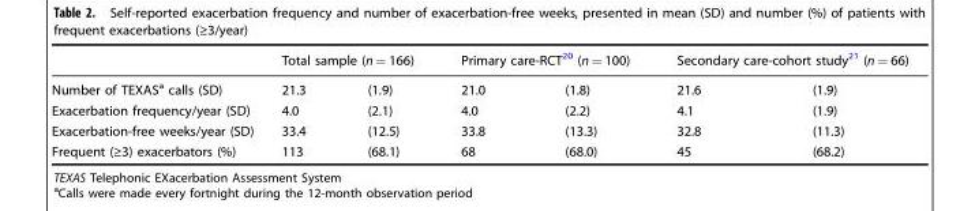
<table><thead><tr><td rowspan="2">Number of TEXAS<sup>a</sup> calls (SD)</td><td colspan="2">Total sample (n = 166)</td><td colspan="2">Primary care-RCT<sup>20</sup> (n = 100)</td><td colspan="2">Secondary care-cohort study<sup>21</sup> (n = 66)</td></tr><tr><td>21.3</td><td>(1.9)</td><td>21.0</td><td>(1.8)</td><td>21.6</td><td>(1.9)</td></tr></thead><tbody><tr><td>Exacerbation frequency/year (SD)</td><td>4.0</td><td>(2.1)</td><td>4.0</td><td>(2.2)</td><td>4.1</td><td>(1.9)</td></tr><tr><td>Exacerbation-free weeks/year (SD)</td><td>33.4</td><td>(12.5)</td><td>33.8</td><td>(13.3)</td><td>32.8</td><td>(11.3)</td></tr><tr><td>Frequent (≥3) exacerbators (%)</td><td>113</td><td>(68.1)</td><td>68</td><td>(68.0)</td><td>45</td><td>(68.2)</td></tr></tbody></table>